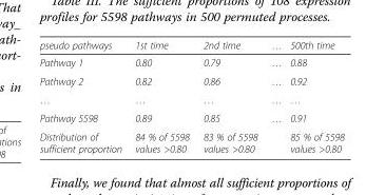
<table><thead><tr><td>pseudo pathways</td><td>1st time</td><td>2nd time</td><td>…</td><td>500th time</td></tr></thead><tbody><tr><td>Pathway 1</td><td>0.80</td><td>0.79</td><td>…</td><td>0.88</td></tr><tr><td>Pathway 2</td><td>0.82</td><td>0.86</td><td>…</td><td>0.92</td></tr><tr><td>…</td><td>…</td><td>…</td><td>…</td><td>…</td></tr><tr><td>Pathway 5598</td><td>0.89</td><td>0.85</td><td>…</td><td>0.91</td></tr><tr><td>Distribution of sufficient proportion</td><td>84 % of 5598 values &gt;0.80</td><td>83 % of 5598 values &gt;0.80</td><td></td><td>85 % of 5598 values &gt;0.80</td></tr></tbody></table>